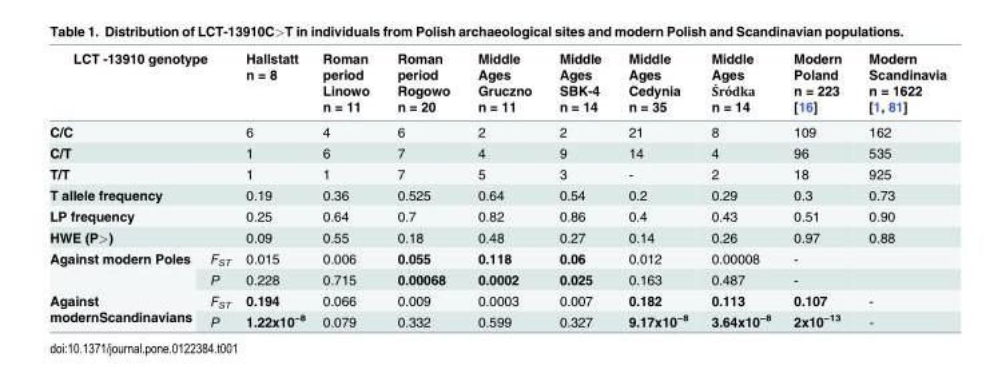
<table><thead><tr><td colspan="2">LCT -13910 genotype</td><td>Hallstatt n = 8</td><td>Roman period Linowo n = 11</td><td>Roman period Rogowo n = 20</td><td>Middle Ages Gruczno n = 11</td><td>Middle Ages SBK-4 n = 14</td><td>Middle Ages Cedynia n = 35</td><td>Middle Ages Śródka n = 14</td><td>Modern Poland n = 223 [16]</td><td>Modern Scandinavia n = 1622 [1, 81]</td></tr></thead><tbody><tr><td colspan="2">C/C</td><td>6</td><td>4</td><td>6</td><td>2</td><td>2</td><td>21</td><td>8</td><td>109</td><td>162</td></tr><tr><td colspan="2">C/T</td><td>1</td><td>6</td><td>7</td><td>4</td><td>9</td><td>14</td><td>4</td><td>96</td><td>535</td></tr><tr><td colspan="2">T/T</td><td>1</td><td>1</td><td>7</td><td>5</td><td>3</td><td>-</td><td>2</td><td>18</td><td>925</td></tr><tr><td colspan="2">T allele frequency</td><td>0.19</td><td>0.36</td><td>0.525</td><td>0.64</td><td>0.54</td><td>0.2</td><td>0.29</td><td>0.3</td><td>0.73</td></tr><tr><td colspan="2">LP frequency</td><td>0.25</td><td>0.64</td><td>0.7</td><td>0.82</td><td>0.86</td><td>0.4</td><td>0.43</td><td>0.51</td><td>0.90</td></tr><tr><td colspan="2">HWE (P&gt;)</td><td>0.09</td><td>0.55</td><td>0.18</td><td>0.48</td><td>0.27</td><td>0.14</td><td>0.26</td><td>0.97</td><td>0.88</td></tr><tr><td rowspan="2">Against modern Poles</td><td>F<sub>ST</sub></td><td>0.015</td><td>0.006</td><td>0.055</td><td>0.118</td><td>0.06</td><td>0.012</td><td>0.00008</td><td>-</td><td></td></tr><tr><td>P</td><td>0.228</td><td>0.715</td><td>0.00068</td><td>0.0002</td><td>0.025</td><td>0.163</td><td>0.487</td><td>-</td><td></td></tr><tr><td rowspan="2">Against modernScandinavians</td><td>F<sub>ST</sub></td><td>0.194</td><td>0.066</td><td>0.009</td><td>0.0003</td><td>0.007</td><td>0.182</td><td>0.113</td><td>0.107</td><td>-</td></tr><tr><td>P</td><td>1.22x10<sup>−8</sup></td><td>0.079</td><td>0.332</td><td>0.599</td><td>0.327</td><td>9.17x10<sup>−8</sup></td><td>3.64x10<sup>−8</sup></td><td>2x10<sup>−13</sup></td><td>-</td></tr></tbody></table>